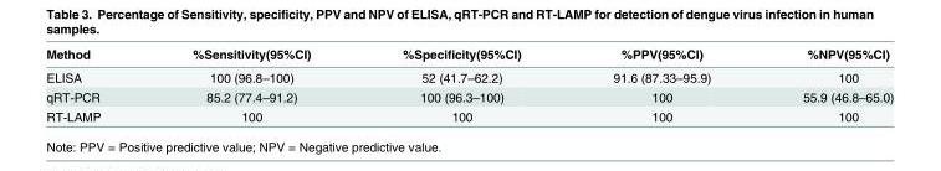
<table><thead><tr><td>Method</td><td>%Sensitivity(95%CI)</td><td>%Specificity(95%CI)</td><td>%PPV(95%CI)</td><td>%NPV(95%CI)</td></tr></thead><tbody><tr><td>ELISA</td><td>100 (96.8–100)</td><td>52 (41.7–62.2)</td><td>91.6 (87.33–95.9)</td><td>100</td></tr><tr><td>qRT-PCR</td><td>85.2 (77.4–91.2)</td><td>100 (96.3–100)</td><td>100</td><td>55.9 (46.8–65.0)</td></tr><tr><td>RT-LAMP</td><td>100</td><td>100</td><td>100</td><td>100</td></tr></tbody></table>